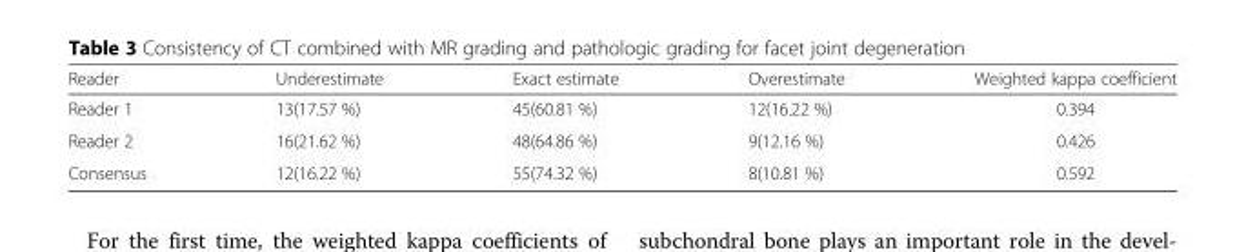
<table><thead><tr><td>Reader</td><td>Underestimate</td><td>Exact estimate</td><td>Overestimate</td><td>Weighted kappa coefficient</td></tr></thead><tbody><tr><td>Reader 1</td><td>13(17.57 %)</td><td>45(60.81 %)</td><td>12(16.22 %)</td><td>0.394</td></tr><tr><td>Reader 2</td><td>16(21.62 %)</td><td>48(64.86 %)</td><td>9(12.16 %)</td><td>0.426</td></tr><tr><td>Consensus</td><td>12(16.22 %)</td><td>55(74.32 %)</td><td>8(10.81 %)</td><td>0.592</td></tr></tbody></table>